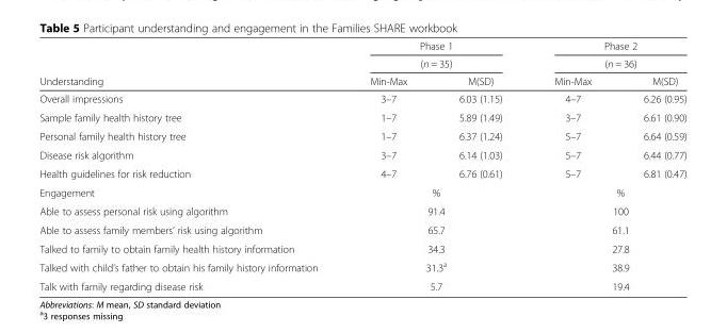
<table><thead><tr><td rowspan="3">Understanding</td><td rowspan="2" colspan="2">Phase 1 (n = 35)</td><td rowspan="2" colspan="2">Phase 2 (n = 36)</td></tr><tr></tr><tr><td>Min-Max</td><td>M(SD)</td><td>Min-Max</td><td>M(SD)</td></tr></thead><tbody><tr><td>Overall impressions</td><td>3–7</td><td>6.03 (1.15)</td><td>4–7</td><td>6.26 (0.95)</td></tr><tr><td>Sample family health history tree</td><td>1–7</td><td>5.89 (1.49)</td><td>3–7</td><td>6.61 (0.90)</td></tr><tr><td>Personal family health history tree</td><td>1–7</td><td>6.37 (1.24)</td><td>5–7</td><td>6.64 (0.59)</td></tr><tr><td>Disease risk algorithm</td><td>3–7</td><td>6.14 (1.03)</td><td>5–7</td><td>6.44 (0.77)</td></tr><tr><td>Health guidelines for risk reduction</td><td>4–7</td><td>6.76 (0.61)</td><td>5–7</td><td>6.81 (0.47)</td></tr><tr><td>Engagement</td><td colspan="2">%</td><td colspan="2">%</td></tr><tr><td>Able to assess personal risk using algorithm</td><td colspan="2">91.4</td><td colspan="2">100</td></tr><tr><td>Able to assess family members’ risk using algorithm</td><td colspan="2">65.7</td><td colspan="2">61.1</td></tr><tr><td>Talked to family to obtain family health history information</td><td colspan="2">34.3</td><td colspan="2">27.8</td></tr><tr><td>Talked with child’s father to obtain his family history information</td><td colspan="2">31.3<sup>a</sup></td><td colspan="2">38.9</td></tr><tr><td>Talk with family regarding disease risk</td><td colspan="2">5.7</td><td colspan="2">19.4</td></tr></tbody></table>